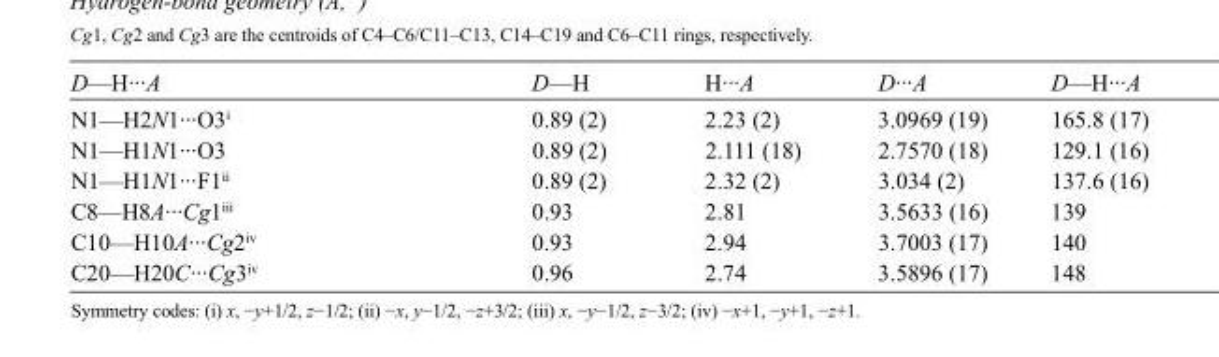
<table><tbody><tr><td>D—H···A</td><td>D—H</td><td>H···A</td><td>D···A</td><td>D—H···A</td></tr><tr><td>N1—H2N1···O3<sup>i</sup></td><td>0.89 (2)</td><td>2.23 (2)</td><td>3.0969 (19)</td><td>165.8 (17)</td></tr><tr><td>N1—H1N1···O3</td><td>0.89 (2)</td><td>2.111 (18)</td><td>2.7570 (18)</td><td>129.1 (16)</td></tr><tr><td>N1—H1N1···F1<sup>ii</sup></td><td>0.89 (2)</td><td>2.32 (2)</td><td>3.034 (2)</td><td>137.6 (16)</td></tr><tr><td>C8—H8A···Cg1<sup>iii</sup></td><td>0.93</td><td>2.81</td><td>3.5633 (16)</td><td>139</td></tr><tr><td>C10—H10A···Cg2<sup>iv</sup></td><td>0.93</td><td>2.94</td><td>3.7003 (17)</td><td>140</td></tr><tr><td>C20—H20C···Cg3<sup>iv</sup></td><td>0.96</td><td>2.74</td><td>3.5896 (17)</td><td>148</td></tr></tbody></table>